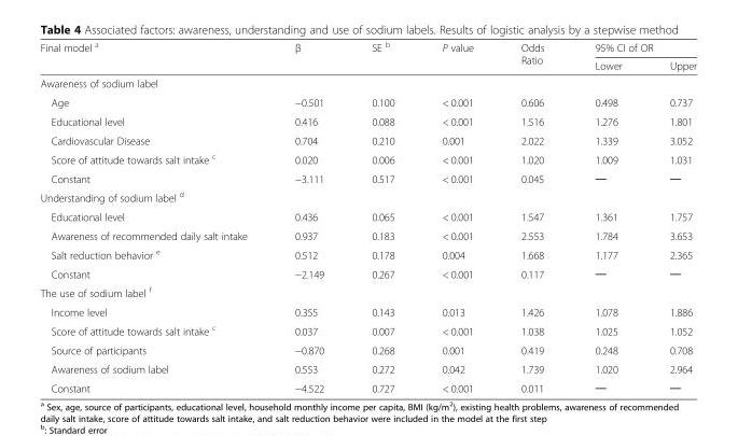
<table><thead><tr><td rowspan="2">Final model <sup>a</sup></td><td rowspan="2">β</td><td rowspan="2">SE <sup>b</sup></td><td rowspan="2">P value</td><td rowspan="2">Odds Ratio</td><td colspan="2">95% CI of OR</td></tr><tr><td>Lower</td><td>Upper</td></tr></thead><tbody><tr><td colspan="7">Awareness of sodium label</td></tr><tr><td>Age</td><td>−0.501</td><td>0.100</td><td>&lt; 0.001</td><td>0.606</td><td>0.498</td><td>0.737</td></tr><tr><td>Educational level</td><td>0.416</td><td>0.088</td><td>&lt; 0.001</td><td>1.516</td><td>1.276</td><td>1.801</td></tr><tr><td>Cardiovascular Disease</td><td>0.704</td><td>0.210</td><td>0.001</td><td>2.022</td><td>1.339</td><td>3.052</td></tr><tr><td>Score of attitude towards salt intake <sup>c</sup></td><td>0.020</td><td>0.006</td><td>&lt; 0.001</td><td>1.020</td><td>1.009</td><td>1.031</td></tr><tr><td>Constant</td><td>−3.111</td><td>0.517</td><td>&lt; 0.001</td><td>0.045</td><td>─</td><td>─</td></tr><tr><td colspan="7">Understanding of sodium label <sup>d</sup></td></tr><tr><td>Educational level</td><td>0.436</td><td>0.065</td><td>&lt; 0.001</td><td>1.547</td><td>1.361</td><td>1.757</td></tr><tr><td>Awareness of recommended daily salt intake</td><td>0.937</td><td>0.183</td><td>&lt; 0.001</td><td>2.553</td><td>1.784</td><td>3.653</td></tr><tr><td>Salt reduction behavior <sup>e</sup></td><td>0.512</td><td>0.178</td><td>0.004</td><td>1.668</td><td>1.177</td><td>2.365</td></tr><tr><td>Constant</td><td>−2.149</td><td>0.267</td><td>&lt; 0.001</td><td>0.117</td><td>─</td><td>─</td></tr><tr><td colspan="7">The use of sodium label <sup>f</sup></td></tr><tr><td>Income level</td><td>0.355</td><td>0.143</td><td>0.013</td><td>1.426</td><td>1.078</td><td>1.886</td></tr><tr><td>Score of attitude towards salt intake <sup>c</sup></td><td>0.037</td><td>0.007</td><td>&lt; 0.001</td><td>1.038</td><td>1.025</td><td>1.052</td></tr><tr><td>Source of participants</td><td>−0.870</td><td>0.268</td><td>0.001</td><td>0.419</td><td>0.248</td><td>0.708</td></tr><tr><td>Awareness of sodium label</td><td>0.553</td><td>0.272</td><td>0.042</td><td>1.739</td><td>1.020</td><td>2.964</td></tr><tr><td>Constant</td><td>−4.522</td><td>0.727</td><td>&lt; 0.001</td><td>0.011</td><td>─</td><td>─</td></tr></tbody></table>